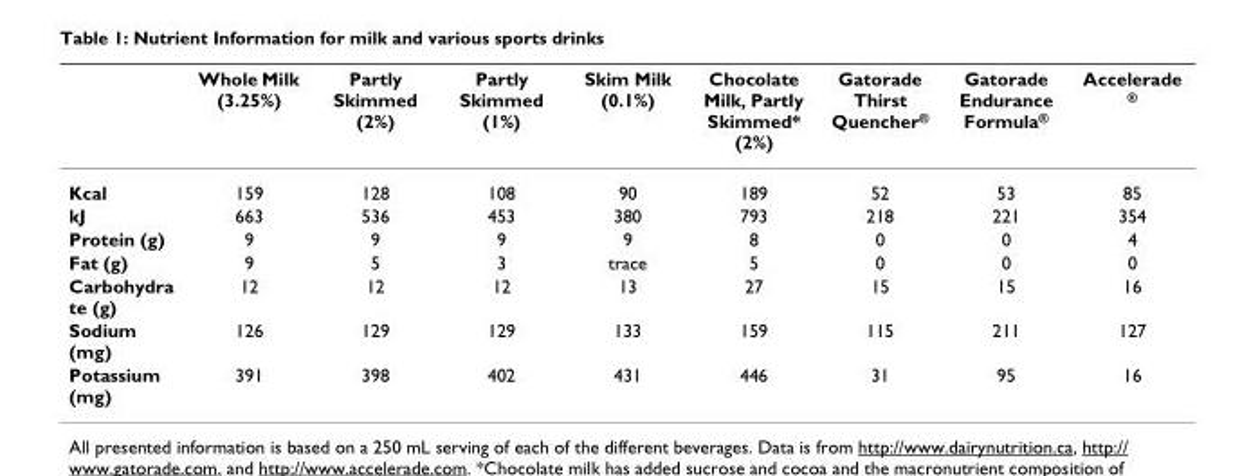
<table><thead><tr><td></td><td>Whole Milk (3.25%)</td><td>Partly Skimmed (2%)</td><td>Partly Skimmed (1%)</td><td>Skim Milk (0.1%)</td><td>Chocolate Milk, Partly Skimmed* (2%)</td><td>Gatorade Thirst Quencher<sup>®</sup></td><td>Gatorade Endurance Formula<sup>®</sup></td><td>Accelerade <sup>®</sup></td></tr></thead><tbody><tr><td>Kcal</td><td>159</td><td>128</td><td>108</td><td>90</td><td>189</td><td>52</td><td>53</td><td>85</td></tr><tr><td>kJ</td><td>663</td><td>536</td><td>453</td><td>380</td><td>793</td><td>218</td><td>221</td><td>354</td></tr><tr><td>Protein (g)</td><td>9</td><td>9</td><td>9</td><td>9</td><td>8</td><td>0</td><td>0</td><td>4</td></tr><tr><td>Fat (g)</td><td>9</td><td>5</td><td>3</td><td>trace</td><td>5</td><td>0</td><td>0</td><td>0</td></tr><tr><td>Carbohydra te (g)</td><td>12</td><td>12</td><td>12</td><td>13</td><td>27</td><td>15</td><td>15</td><td>16</td></tr><tr><td>Sodium (mg)</td><td>126</td><td>129</td><td>129</td><td>133</td><td>159</td><td>115</td><td>211</td><td>127</td></tr><tr><td>Potassium (mg)</td><td>391</td><td>398</td><td>402</td><td>431</td><td>446</td><td>31</td><td>95</td><td>16</td></tr></tbody></table>